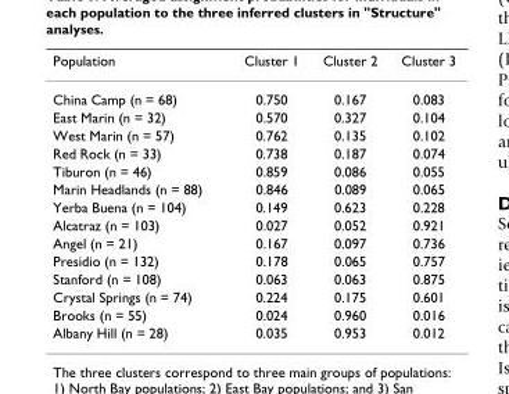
<table><thead><tr><td>Population</td><td>Cluster 1</td><td>Cluster 2</td><td>Cluster 3</td></tr></thead><tbody><tr><td>China Camp (n = 68)</td><td>0.750</td><td>0.167</td><td>0.083</td></tr><tr><td>East Marin (n = 32)</td><td>0.570</td><td>0.327</td><td>0.104</td></tr><tr><td>West Marin (n = 57)</td><td>0.762</td><td>0.135</td><td>0.102</td></tr><tr><td>Red Rock (n = 33)</td><td>0.738</td><td>0.187</td><td>0.074</td></tr><tr><td>Tiburon (n = 46)</td><td>0.859</td><td>0.086</td><td>0.055</td></tr><tr><td>Marin Headlands (n = 88)</td><td>0.846</td><td>0.089</td><td>0.065</td></tr><tr><td>Yerba Buena (n = 104)</td><td>0.149</td><td>0.623</td><td>0.228</td></tr><tr><td>Alcatraz (n = 103)</td><td>0.027</td><td>0.052</td><td>0.921</td></tr><tr><td>Angel (n = 21)</td><td>0.167</td><td>0.097</td><td>0.736</td></tr><tr><td>Presidio (n = 132)</td><td>0.178</td><td>0.065</td><td>0.757</td></tr><tr><td>Stanford (n = 108)</td><td>0.063</td><td>0.063</td><td>0.875</td></tr><tr><td>Crystal Springs (n = 74)</td><td>0.224</td><td>0.175</td><td>0.601</td></tr><tr><td>Brooks (n = 55)</td><td>0.024</td><td>0.960</td><td>0.016</td></tr><tr><td>Albany Hill (n = 28)</td><td>0.035</td><td>0.953</td><td>0.012</td></tr></tbody></table>